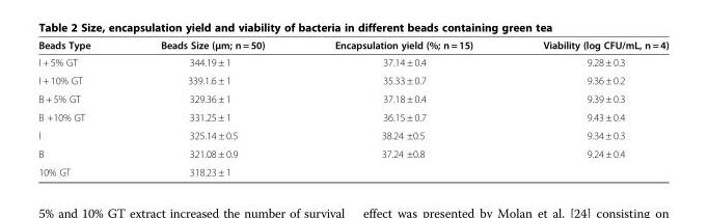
<table><thead><tr><td>Beads Type</td><td>Beads Size (μm; n = 50)</td><td>Encapsulation yield (%; n = 15)</td><td>Viability (log CFU/mL, n = 4)</td></tr></thead><tbody><tr><td>I + 5% GT</td><td>344.19 ± 1</td><td>37.14 ± 0.4</td><td>9.28 ± 0.3</td></tr><tr><td>I + 10% GT</td><td>339.1.6 ± 1</td><td>35.33 ± 0.7</td><td>9.36 ± 0.2</td></tr><tr><td>B + 5% GT</td><td>329.36 ± 1</td><td>37.18 ± 0.4</td><td>9.39 ± 0.3</td></tr><tr><td>B +10% GT</td><td>331.25 ± 1</td><td>36.15 ± 0.7</td><td>9.43 ± 0.4</td></tr><tr><td>I</td><td>325.14 ± 0.5</td><td>38.24 ±0.5</td><td>9.34 ± 0.3</td></tr><tr><td>B</td><td>321.08 ± 0.9</td><td>37.24 ±0.8</td><td>9.24 ± 0.4</td></tr><tr><td>10% GT</td><td>318.23 ± 1</td><td></td><td></td></tr></tbody></table>